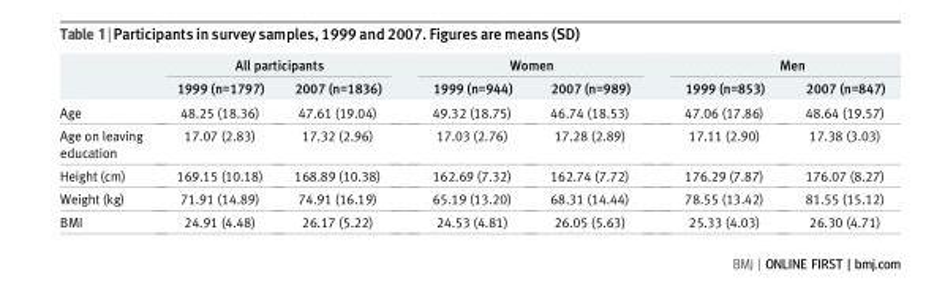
<table><thead><tr><td rowspan="2"></td><td colspan="2">All participants</td><td colspan="2">Women</td><td colspan="2">Men</td></tr><tr><td>1999 (n=1797)</td><td>2007 (n=1836)</td><td>1999 (n=944)</td><td>2007 (n=989)</td><td>1999 (n=853)</td><td>2007 (n=847)</td></tr></thead><tbody><tr><td>Age</td><td>48.25 (18.36)</td><td>47.61 (19.04)</td><td>49.32 (18.75)</td><td>46.74 (18.53)</td><td>47.06 (17.86)</td><td>48.64 (19.57)</td></tr><tr><td>Age on leaving education</td><td>17.07 (2.83)</td><td>17.32 (2.96)</td><td>17.03 (2.76)</td><td>17.28 (2.89)</td><td>17.11 (2.90)</td><td>17.38 (3.03)</td></tr><tr><td>Height (cm)</td><td>169.15 (10.18)</td><td>168.89 (10.38)</td><td>162.69 (7.32)</td><td>162.74 (7.72)</td><td>176.29 (7.87)</td><td>176.07 (8.27)</td></tr><tr><td>Weight (kg)</td><td>71.91 (14.89)</td><td>74.91 (16.19)</td><td>65.19 (13.20)</td><td>68.31 (14.44)</td><td>78.55 (13.42)</td><td>81.55 (15.12)</td></tr><tr><td>BMI</td><td>24.91 (4.48)</td><td>26.17 (5.22)</td><td>24.53 (4.81)</td><td>26.05 (5.63)</td><td>25.33 (4.03)</td><td>26.30 (4.71)</td></tr></tbody></table>